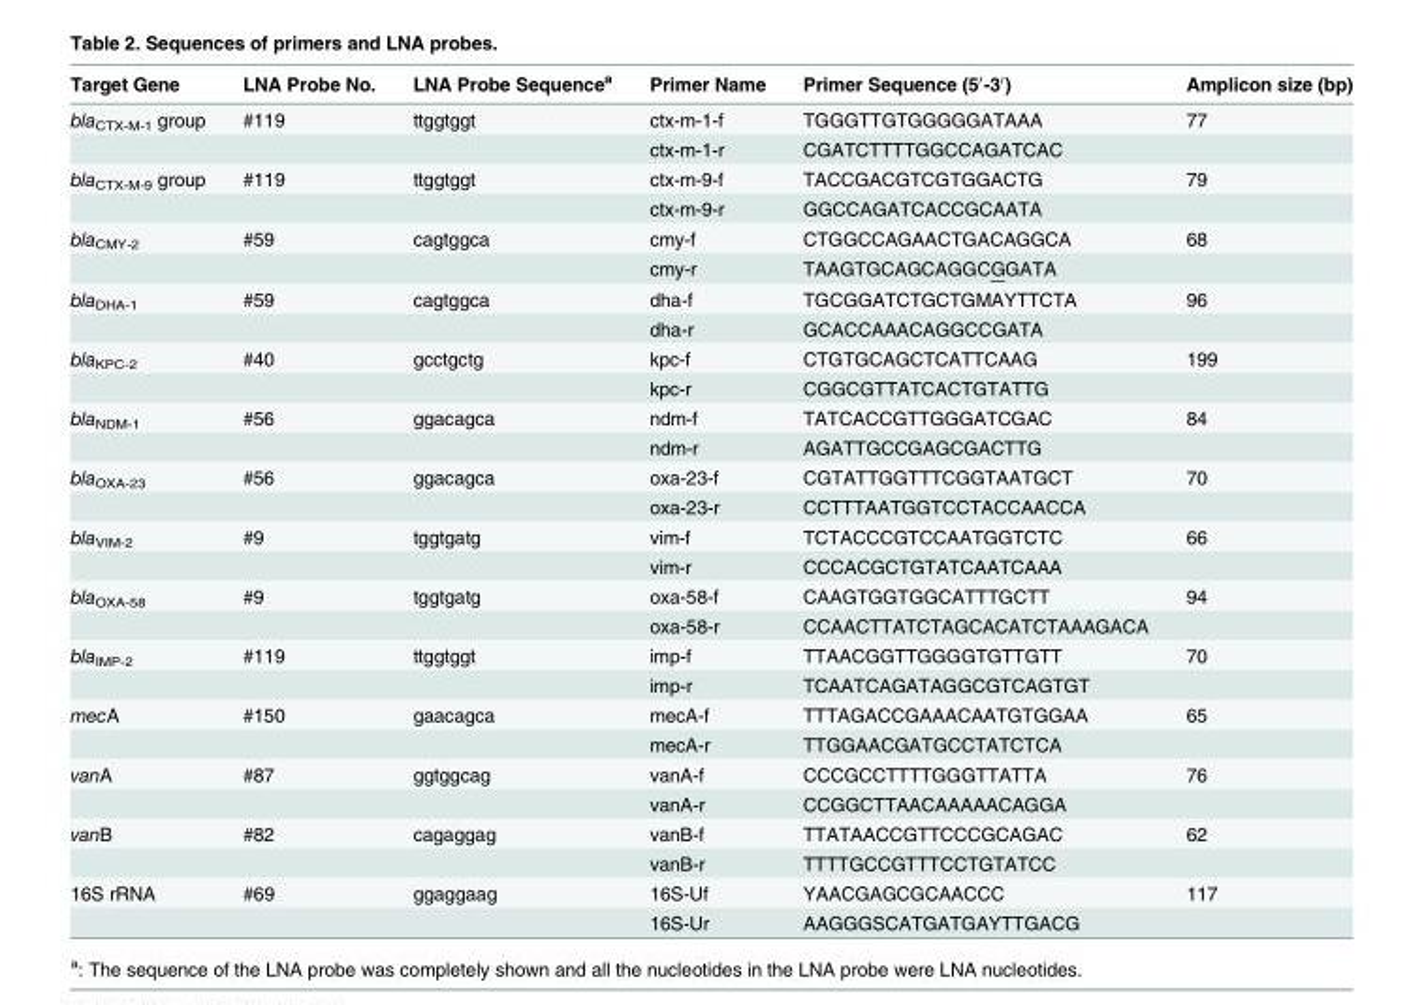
<table><thead><tr><td>Target Gene</td><td>LNA Probe No.</td><td>LNA Probe Sequence<sup>a</sup></td><td>Primer Name</td><td>Primer Sequence (5′-3′)</td><td>Amplicon size (bp)</td></tr></thead><tbody><tr><td rowspan="2">bla<sub>CTX-M-1</sub> group</td><td>#119</td><td>ttggtggt</td><td>ctx-m-1-f</td><td>TGGGTTGTGGGGGATAAA</td><td>77</td></tr><tr><td></td><td></td><td>ctx-m-1-r</td><td>CGATCTTTTGGCCAGATCAC</td><td></td></tr><tr><td rowspan="2">bla<sub>CTX-M-9</sub> group</td><td>#119</td><td>ttggtggt</td><td>ctx-m-9-f</td><td>TACCGACGTCGTGGACTG</td><td>79</td></tr><tr><td></td><td></td><td>ctx-m-9-r</td><td>GGCCAGATCACCGCAATA</td><td></td></tr><tr><td rowspan="2">bla<sub>CMY-2</sub></td><td>#59</td><td>cagtggca</td><td>cmy-f</td><td>CTGGCCAGAACTGACAGGCA</td><td>68</td></tr><tr><td></td><td></td><td>cmy-r</td><td>TAAGTGCAGCAGGCGGATA</td><td></td></tr><tr><td rowspan="2">bla<sub>DHA-1</sub></td><td>#59</td><td>cagtggca</td><td>dha-f</td><td>TGCGGATCTGCTGMAYTTCTA</td><td>96</td></tr><tr><td></td><td></td><td>dha-r</td><td>GCACCAAACAGGCCGATA</td><td></td></tr><tr><td rowspan="2">bla<sub>KPC-2</sub></td><td>#40</td><td>gcctgctg</td><td>kpc-f</td><td>CTGTGCAGCTCATTCAAG</td><td>199</td></tr><tr><td></td><td></td><td>kpc-r</td><td>CGGCGTTATCACTGTATTG</td><td></td></tr><tr><td rowspan="2">bla<sub>NDM-1</sub></td><td>#56</td><td>ggacagca</td><td>ndm-f</td><td>TATCACCGTTGGGATCGAC</td><td>84</td></tr><tr><td></td><td></td><td>ndm-r</td><td>AGATTGCCGAGCGACTTG</td><td></td></tr><tr><td rowspan="2">bla<sub>OXA-23</sub></td><td>#56</td><td>ggacagca</td><td>oxa-23-f</td><td>CGTATTGGTTTCGGTAATGCT</td><td>70</td></tr><tr><td></td><td></td><td>oxa-23-r</td><td>CCTTTAATGGTCCTACCAACCA</td><td></td></tr><tr><td rowspan="2">bla<sub>VIM-2</sub></td><td>#9</td><td>tggtgatg</td><td>vim-f</td><td>TCTACCCGTCCAATGGTCTC</td><td>66</td></tr><tr><td></td><td></td><td>vim-r</td><td>CCCACGCTGTATCAATCAAA</td><td></td></tr><tr><td rowspan="2">bla<sub>OXA-58</sub></td><td>#9</td><td>tggtgatg</td><td>oxa-58-f</td><td>CAAGTGGTGGCATTTGCTT</td><td>94</td></tr><tr><td></td><td></td><td>oxa-58-r</td><td>CCAACTTATCTAGCACATCTAAAGACA</td><td></td></tr><tr><td rowspan="2">bla<sub>IMP-2</sub></td><td>#119</td><td>ttggtggt</td><td>imp-f</td><td>TTAACGGTTGGGGTGTTGTT</td><td>70</td></tr><tr><td></td><td></td><td>imp-r</td><td>TCAATCAGATAGGCGTCAGTGT</td><td></td></tr><tr><td rowspan="2">mecA</td><td>#150</td><td>gaacagca</td><td>mecA-f</td><td>TTTAGACCGAAACAATGTGGAA</td><td>65</td></tr><tr><td></td><td></td><td>mecA-r</td><td>TTGGAACGATGCCTATCTCA</td><td></td></tr><tr><td rowspan="2">vanA</td><td>#87</td><td>ggtggcag</td><td>vanA-f</td><td>CCCGCCTTTTGGGTTATTA</td><td>76</td></tr><tr><td></td><td></td><td>vanA-r</td><td>CCGGCTTAACAAAAACAGGA</td><td></td></tr><tr><td rowspan="2">vanB</td><td>#82</td><td>cagaggag</td><td>vanB-f</td><td>TTATAACCGTTCCCGCAGAC</td><td>62</td></tr><tr><td></td><td></td><td>vanB-r</td><td>TTTTGCCGTTTCCTGTATCC</td><td></td></tr><tr><td rowspan="2">16S rRNA</td><td>#69</td><td>ggaggaag</td><td>16S-Uf</td><td>YAACGAGCGCAACCC</td><td>117</td></tr><tr><td></td><td></td><td>16S-Ur</td><td>AAGGGSCATGATGAYTTGACG</td><td></td></tr></tbody></table>